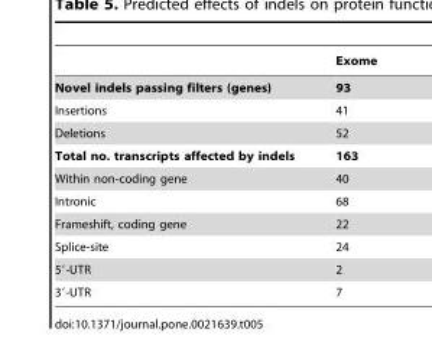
<table><thead><tr><td></td><td>Exome</td></tr></thead><tbody><tr><td>Novel indels passing filters (genes)</td><td>93</td></tr><tr><td>Insertions</td><td>41</td></tr><tr><td>Deletions</td><td>52</td></tr><tr><td>Total no. transcripts affected by indels</td><td>163</td></tr><tr><td>Within non-coding gene</td><td>40</td></tr><tr><td>Intronic</td><td>68</td></tr><tr><td>Frameshift, coding gene</td><td>22</td></tr><tr><td>Splice-site</td><td>24</td></tr><tr><td>5′-UTR</td><td>2</td></tr><tr><td>3′-UTR</td><td>7</td></tr></tbody></table>